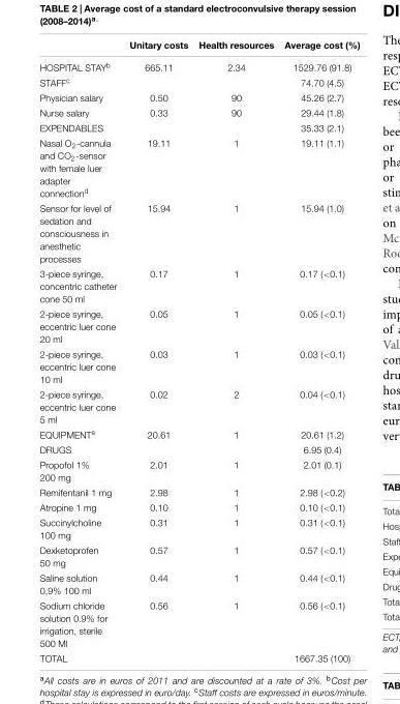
<table><thead><tr><td></td><td>Unitary costs</td><td>Health resources</td><td>Average cost (%)</td></tr></thead><tbody><tr><td>HOSPITAL STAY<sup>b</sup></td><td>665.11</td><td>2.34</td><td>1529.76 (91.8)</td></tr><tr><td>STAFF<sup>c</sup></td><td></td><td></td><td>74.70 (4.5)</td></tr><tr><td>Physician salary</td><td>0.50</td><td>90</td><td>45.26 (2.7)</td></tr><tr><td>Nurse salary</td><td>0.33</td><td>90</td><td>29.44 (1.8)</td></tr><tr><td>EXPENDABLES</td><td></td><td></td><td>35.33 (2.1)</td></tr><tr><td>Nasal O<sub>2</sub>-cannula and CO<sub>2</sub>-sensor with female luer adapter connection<sup>d</sup></td><td>19.11</td><td>1</td><td>19.11 (1.1)</td></tr><tr><td>Sensor for level of sedation and consciousness in anesthetic processes</td><td>15.94</td><td>1</td><td>15.94 (1.0)</td></tr><tr><td>3-piece syringe, concentric catheter cone 50 ml</td><td>0.17</td><td>1</td><td>0.17 (&lt;0.1)</td></tr><tr><td>2-piece syringe, eccentric luer cone 20 ml</td><td>0.05</td><td>1</td><td>0.05 (&lt;0.1)</td></tr><tr><td>2-piece syringe, eccentric luer cone 10 ml</td><td>0.03</td><td>1</td><td>0.03 (&lt;0.1)</td></tr><tr><td>2-piece syringe, eccentric luer cone 5 ml</td><td>0.02</td><td>2</td><td>0.04 (&lt;0.1)</td></tr><tr><td>EQUIPMENT<sup>e</sup></td><td>20.61</td><td>1</td><td>20.61 (1.2)</td></tr><tr><td>DRUGS</td><td></td><td></td><td>6.95 (0.4)</td></tr><tr><td>Propofol 1% 200 mg</td><td>2.01</td><td>1</td><td>2.01 (0.1)</td></tr><tr><td>Remifentanil 1 mg</td><td>2.98</td><td>1</td><td>2.98 (&lt;0.2)</td></tr><tr><td>Atropine 1 mg</td><td>0.10</td><td>1</td><td>0.10 (&lt;0.1)</td></tr><tr><td>Succinylcholine 100 mg</td><td>0.31</td><td>1</td><td>0.31 (&lt;0.1)</td></tr><tr><td>Dexketoprofen 50 mg</td><td>0.57</td><td>1</td><td>0.57 (&lt;0.1)</td></tr><tr><td>Saline solution 0,9% 100 ml</td><td>0.44</td><td>1</td><td>0.44 (&lt;0.1)</td></tr><tr><td>Sodium chloride solution 0.9% for irrigation, sterile 500 Ml</td><td>0.56</td><td>1</td><td>0.56 (&lt;0.1)</td></tr><tr><td>TOTAL</td><td></td><td></td><td>1667.35 (100)</td></tr></tbody></table>